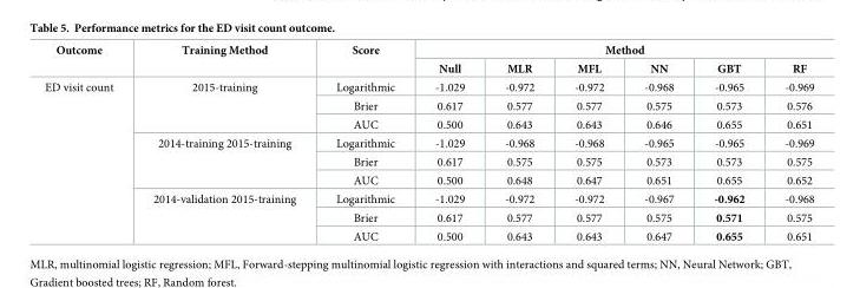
<table><thead><tr><td rowspan="2">Outcome</td><td rowspan="2">Training Method</td><td rowspan="2">Score</td><td colspan="6">Method</td></tr><tr><td>Null</td><td>MLR</td><td>MFL</td><td>NN</td><td>GBT</td><td>RF</td></tr></thead><tbody><tr><td rowspan="9">ED visit count</td><td rowspan="3">2015-training</td><td>Logarithmic</td><td>-1.029</td><td>-0.972</td><td>-0.972</td><td>-0.968</td><td>-0.965</td><td>-0.969</td></tr><tr><td>Brier</td><td>0.617</td><td>0.577</td><td>0.577</td><td>0.575</td><td>0.573</td><td>0.576</td></tr><tr><td>AUC</td><td>0.500</td><td>0.643</td><td>0.643</td><td>0.646</td><td>0.655</td><td>0.651</td></tr><tr><td rowspan="3">2014-training 2015-training</td><td>Logarithmic</td><td>-1.029</td><td>-0.968</td><td>-0.968</td><td>-0.965</td><td>-0.965</td><td>-0.969</td></tr><tr><td>Brier</td><td>0.617</td><td>0.575</td><td>0.575</td><td>0.573</td><td>0.573</td><td>0.575</td></tr><tr><td>AUC</td><td>0.500</td><td>0.648</td><td>0.647</td><td>0.651</td><td>0.655</td><td>0.652</td></tr><tr><td rowspan="3">2014-validation 2015-training</td><td>Logarithmic</td><td>-1.029</td><td>-0.972</td><td>-0.972</td><td>-0.967</td><td>-0.962</td><td>-0.968</td></tr><tr><td>Brier</td><td>0.617</td><td>0.577</td><td>0.577</td><td>0.575</td><td>0.571</td><td>0.575</td></tr><tr><td>AUC</td><td>0.500</td><td>0.643</td><td>0.643</td><td>0.647</td><td>0.655</td><td>0.651</td></tr></tbody></table>